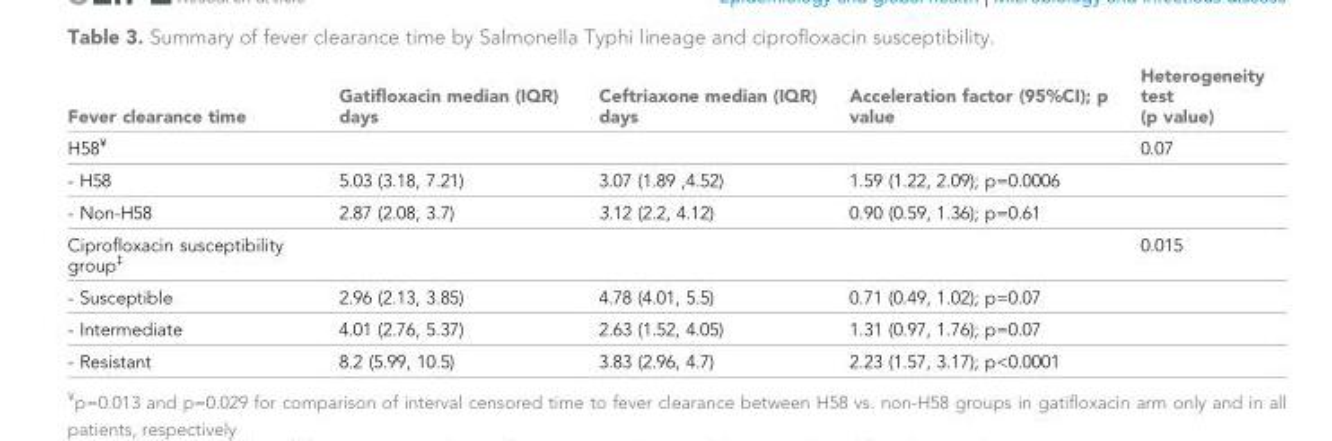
<table><thead><tr><td>Fever clearance time</td><td>Gatifloxacin median (IQR) days</td><td>Ceftriaxone median (IQR) days</td><td>Acceleration factor (95%CI); p value</td><td>Heterogeneity test (p value)</td></tr></thead><tbody><tr><td>H58<sup>¥</sup></td><td></td><td></td><td></td><td>0.07</td></tr><tr><td>- H58</td><td>5.03 (3.18, 7.21)</td><td>3.07 (1.89 ,4.52)</td><td>1.59 (1.22, 2.09); p=0.0006</td><td></td></tr><tr><td>- Non-H58</td><td>2.87 (2.08, 3.7)</td><td>3.12 (2.2, 4.12)</td><td>0.90 (0.59, 1.36); p=0.61</td><td></td></tr><tr><td>Ciprofloxacin susceptibility group<sup>‡</sup></td><td></td><td></td><td></td><td>0.015</td></tr><tr><td>- Susceptible</td><td>2.96 (2.13, 3.85)</td><td>4.78 (4.01, 5.5)</td><td>0.71 (0.49, 1.02); p=0.07</td><td></td></tr><tr><td>- Intermediate</td><td>4.01 (2.76, 5.37)</td><td>2.63 (1.52, 4.05)</td><td>1.31 (0.97, 1.76); p=0.07</td><td></td></tr><tr><td>- Resistant</td><td>8.2 (5.99, 10.5)</td><td>3.83 (2.96, 4.7)</td><td>2.23 (1.57, 3.17); p&lt;0.0001</td><td></td></tr></tbody></table>